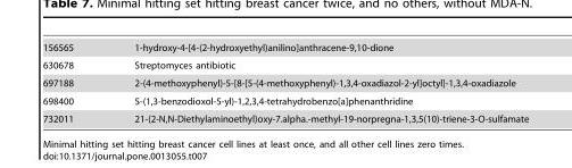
<table><tbody><tr><td>156565</td><td>1-hydroxy-4-[4-(2-hydroxyethyl)anilino]anthracene-9,10-dione</td></tr><tr><td>630678</td><td>Streptomyces antibiotic</td></tr><tr><td>697188</td><td>2-(4-methoxyphenyl)-5-[8-[5-(4-methoxyphenyl)-1,3,4-oxadiazol-2-yl]octyl]-1,3,4-oxadiazole</td></tr><tr><td>698400</td><td>5-(1,3-benzodioxol-5-yl)-1,2,3,4-tetrahydrobenzo[a]phenanthridine</td></tr><tr><td>732011</td><td>21-(2-N,N-Diethylaminoethyl)oxy-7.alpha.-methyl-19-norpregna-1,3,5(10)-triene-3-O-sulfamate</td></tr></tbody></table>